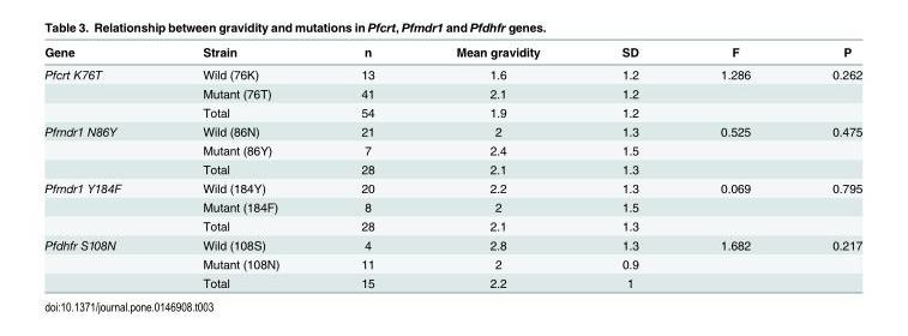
<table><thead><tr><td>Gene</td><td>Strain</td><td>n</td><td>Mean gravidity</td><td>SD</td><td>F</td><td>P</td></tr></thead><tbody><tr><td rowspan="3">Pfcrt K76T</td><td>Wild (76K)</td><td>13</td><td>1.6</td><td>1.2</td><td>1.286</td><td>0.262</td></tr><tr><td>Mutant (76T)</td><td>41</td><td>2.1</td><td>1.2</td><td></td><td></td></tr><tr><td>Total</td><td>54</td><td>1.9</td><td>1.2</td><td></td><td></td></tr><tr><td rowspan="3">Pfmdr1 N86Y</td><td>Wild (86N)</td><td>21</td><td>2</td><td>1.3</td><td>0.525</td><td>0.475</td></tr><tr><td>Mutant (86Y)</td><td>7</td><td>2.4</td><td>1.5</td><td></td><td></td></tr><tr><td>Total</td><td>28</td><td>2.1</td><td>1.3</td><td></td><td></td></tr><tr><td rowspan="3">Pfmdr1 Y184F</td><td>Wild (184Y)</td><td>20</td><td>2.2</td><td>1.3</td><td>0.069</td><td>0.795</td></tr><tr><td>Mutant (184F)</td><td>8</td><td>2</td><td>1.5</td><td></td><td></td></tr><tr><td>Total</td><td>28</td><td>2.1</td><td>1.3</td><td></td><td></td></tr><tr><td rowspan="3">Pfdhfr S108N</td><td>Wild (108S)</td><td>4</td><td>2.8</td><td>1.3</td><td>1.682</td><td>0.217</td></tr><tr><td>Mutant (108N)</td><td>11</td><td>2</td><td>0.9</td><td></td><td></td></tr><tr><td>Total</td><td>15</td><td>2.2</td><td>1</td><td></td><td></td></tr></tbody></table>